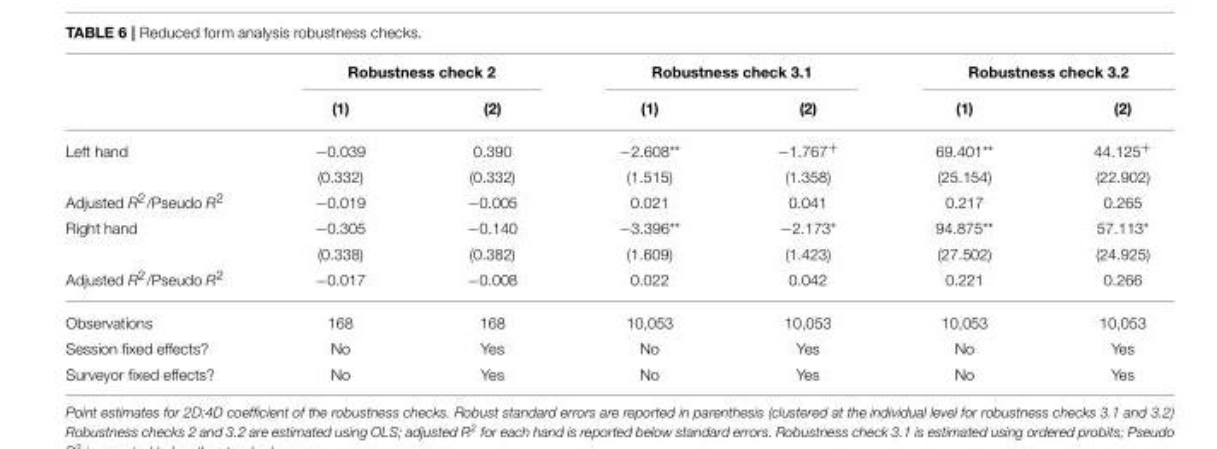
<table><thead><tr><td rowspan="2"></td><td colspan="2">Robustness check 2</td><td colspan="2">Robustness check 3.1</td><td colspan="2">Robustness check 3.2</td></tr><tr><td>(1)</td><td>(2)</td><td>(1)</td><td>(2)</td><td>(1)</td><td>(2)</td></tr></thead><tbody><tr><td rowspan="2">Left hand</td><td>−0.039</td><td>0.390</td><td>−2.608**</td><td>−1.767<sup>+</sup></td><td>69.401**</td><td>44.125<sup>+</sup></td></tr><tr><td>(0.332)</td><td>(0.332)</td><td>(1.515)</td><td>(1.358)</td><td>(25.154)</td><td>(22.902)</td></tr><tr><td>Adjusted R<sup>2</sup>/Pseudo R<sup>2</sup></td><td>−0.019</td><td>−0.005</td><td>0.021</td><td>0.041</td><td>0.217</td><td>0.265</td></tr><tr><td rowspan="2">Right hand</td><td>−0.305</td><td>−0.140</td><td>−3.396**</td><td>−2.173*</td><td>94.875**</td><td>57.113*</td></tr><tr><td>(0.338)</td><td>(0.382)</td><td>(1.609)</td><td>(1.423)</td><td>(27.502)</td><td>(24.925)</td></tr><tr><td>Adjusted R<sup>2</sup>/Pseudo R<sup>2</sup></td><td>−0.017</td><td>−0.008</td><td>0.022</td><td>0.042</td><td>0.221</td><td>0.266</td></tr><tr><td>Observations</td><td>168</td><td>168</td><td>10,053</td><td>10,053</td><td>10,053</td><td>10,053</td></tr><tr><td>Session fixed effects?</td><td>No</td><td>Yes</td><td>No</td><td>Yes</td><td>No</td><td>Yes</td></tr><tr><td>Surveyor fixed effects?</td><td>No</td><td>Yes</td><td>No</td><td>Yes</td><td>No</td><td>Yes</td></tr></tbody></table>